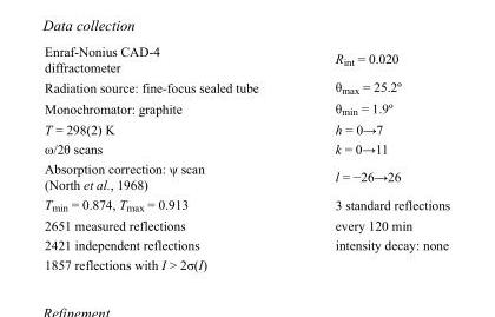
<table><tbody><tr><td>Enraf-Nonius CAD-4 diffractometer</td><td>R<sub>int</sub> = 0.020</td></tr><tr><td>Radiation source: fine-focus sealed tube</td><td>θ<sub>max</sub> = 25.2º</td></tr><tr><td>Monochromator: graphite</td><td>θ<sub>min</sub> = 1.9º</td></tr><tr><td>T = 298(2) K</td><td>h = 0→7</td></tr><tr><td>ω/2θ scans</td><td>k = 0→11</td></tr><tr><td>Absorption correction: ψ scan (North et al., 1968)</td><td>l = −26→26</td></tr><tr><td>T<sub>min</sub> = 0.874, T<sub>max</sub> = 0.913</td><td>3 standard reflections</td></tr><tr><td>2651 measured reflections</td><td>every 120 min</td></tr><tr><td>2421 independent reflections</td><td>intensity decay: none</td></tr><tr><td>1857 reflections with I &gt; 2σ(I)</td><td></td></tr></tbody></table>